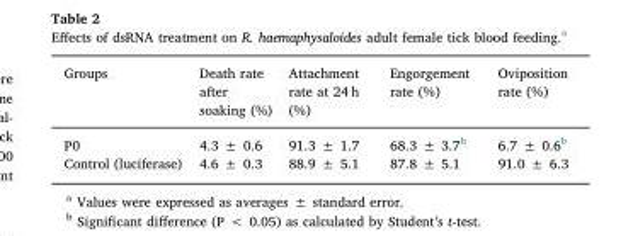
<table><thead><tr><td>Groups</td><td>Death rate after soaking (%)</td><td>Attachment rate at 24 h (%)</td><td>Engorgement rate (%)</td><td>Oviposition rate (%)</td></tr></thead><tbody><tr><td>P0</td><td>4.3 ± 0.6</td><td>91.3 ± 1.7</td><td>68.3 ± 3.7<sup>b</sup></td><td>6.7 ± 0.6<sup>b</sup></td></tr><tr><td>Control (luciferase)</td><td>4.6 ± 0.3</td><td>88.9 ± 5.1</td><td>87.8 ± 5.1</td><td>91.0 ± 6.3</td></tr></tbody></table>